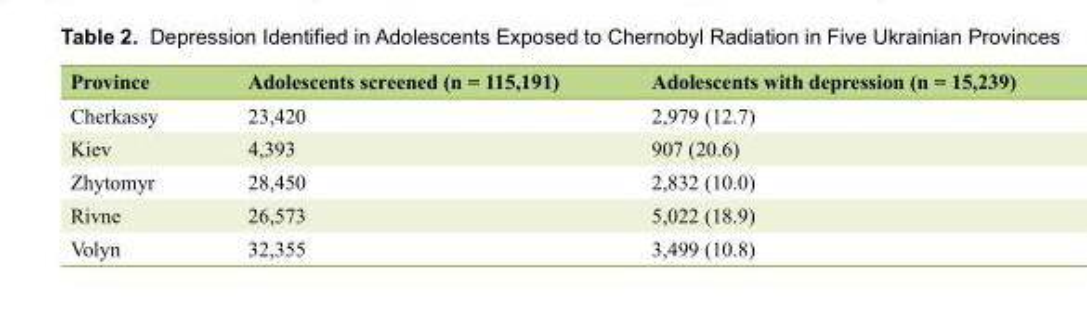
<table><thead><tr><td>Province</td><td>Adolescents screened (n = 115,191)</td><td>Adolescents with depression (n = 15,239)</td></tr></thead><tbody><tr><td>Cherkassy</td><td>23,420</td><td>2,979 (12.7)</td></tr><tr><td>Kiev</td><td>4,393</td><td>907 (20.6)</td></tr><tr><td>Zhytomyr</td><td>28,450</td><td>2,832 (10.0)</td></tr><tr><td>Rivne</td><td>26,573</td><td>5,022 (18.9)</td></tr><tr><td>Volyn</td><td>32,355</td><td>3,499 (10.8)</td></tr></tbody></table>